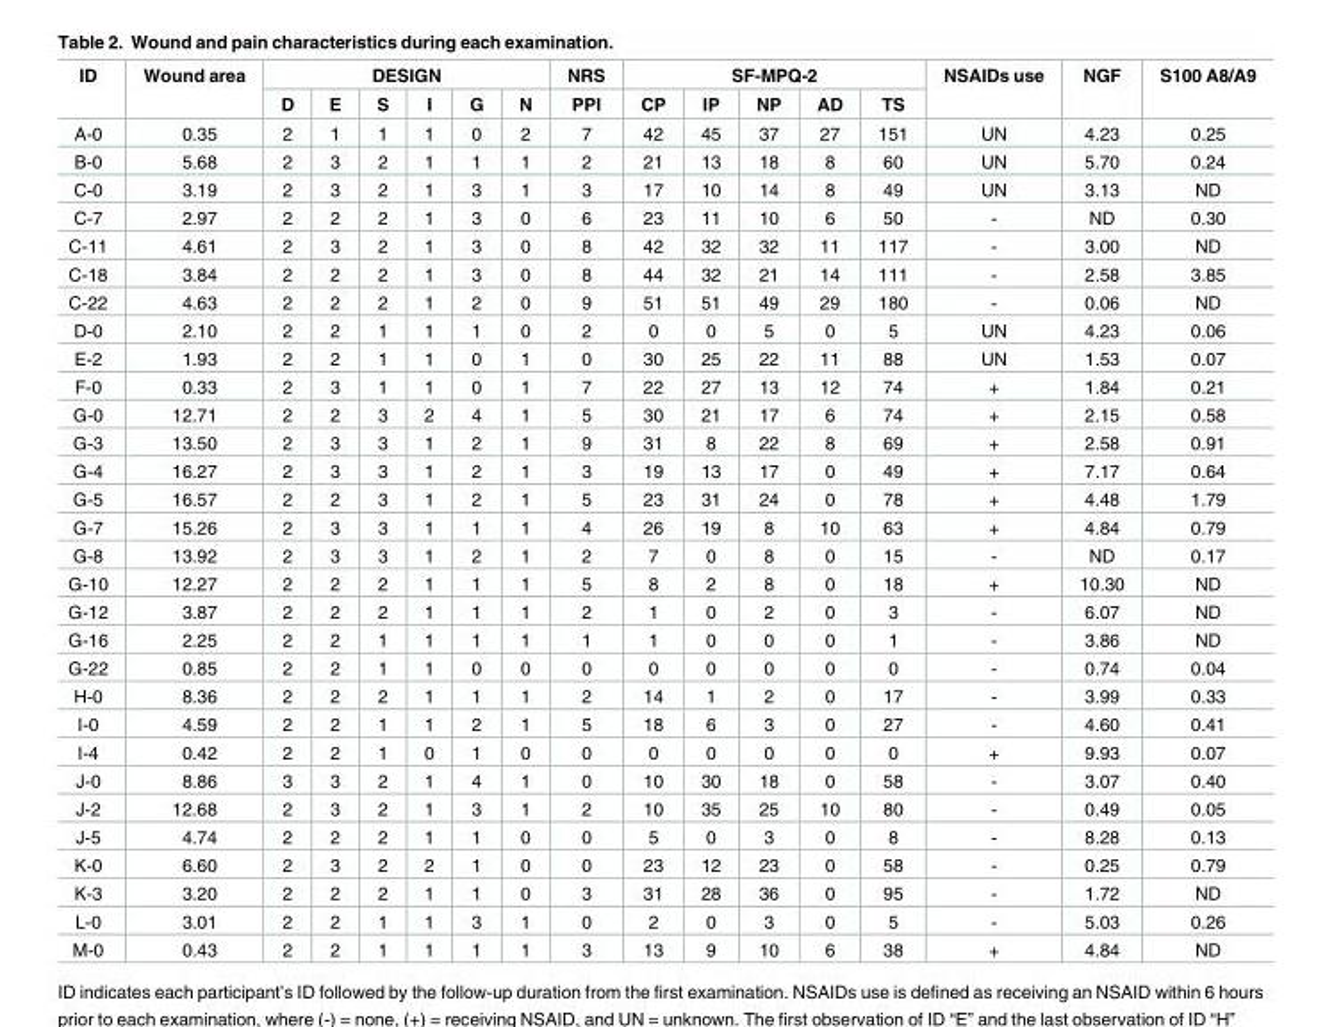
<table><thead><tr><td rowspan="2">ID</td><td rowspan="2">Wound area</td><td colspan="6">DESIGN</td><td rowspan="2">NRS PPI</td><td colspan="5">SF-MPQ-2</td><td rowspan="2">NSAIDs use</td><td rowspan="2">NGF</td><td rowspan="2">S100 A8/A9</td></tr><tr><td>D</td><td>E</td><td>S</td><td>I</td><td>G</td><td>N</td><td>CP</td><td>IP</td><td>NP</td><td>AD</td><td>TS</td></tr></thead><tbody><tr><td>A-0</td><td>0.35</td><td>2</td><td>1</td><td>1</td><td>1</td><td>0</td><td>2</td><td>7</td><td>42</td><td>45</td><td>37</td><td>27</td><td>151</td><td>UN</td><td>4.23</td><td>0.25</td></tr><tr><td>B-0</td><td>5.68</td><td>2</td><td>3</td><td>2</td><td>1</td><td>1</td><td>1</td><td>2</td><td>21</td><td>13</td><td>18</td><td>8</td><td>60</td><td>UN</td><td>5.70</td><td>0.24</td></tr><tr><td>C-0</td><td>3.19</td><td>2</td><td>3</td><td>2</td><td>1</td><td>3</td><td>1</td><td>3</td><td>17</td><td>10</td><td>14</td><td>8</td><td>49</td><td>UN</td><td>3.13</td><td>ND</td></tr><tr><td>C-7</td><td>2.97</td><td>2</td><td>2</td><td>2</td><td>1</td><td>3</td><td>0</td><td>6</td><td>23</td><td>11</td><td>10</td><td>6</td><td>50</td><td>-</td><td>ND</td><td>0.30</td></tr><tr><td>C-11</td><td>4.61</td><td>2</td><td>3</td><td>2</td><td>1</td><td>3</td><td>0</td><td>8</td><td>42</td><td>32</td><td>32</td><td>11</td><td>117</td><td>-</td><td>3.00</td><td>ND</td></tr><tr><td>C-18</td><td>3.84</td><td>2</td><td>2</td><td>2</td><td>1</td><td>3</td><td>0</td><td>8</td><td>44</td><td>32</td><td>21</td><td>14</td><td>111</td><td>-</td><td>2.58</td><td>3.85</td></tr><tr><td>C-22</td><td>4.63</td><td>2</td><td>2</td><td>2</td><td>1</td><td>2</td><td>0</td><td>9</td><td>51</td><td>51</td><td>49</td><td>29</td><td>180</td><td>-</td><td>0.06</td><td>ND</td></tr><tr><td>D-0</td><td>2.10</td><td>2</td><td>2</td><td>1</td><td>1</td><td>1</td><td>0</td><td>2</td><td>0</td><td>0</td><td>5</td><td>0</td><td>5</td><td>UN</td><td>4.23</td><td>0.06</td></tr><tr><td>E-2</td><td>1.93</td><td>2</td><td>2</td><td>1</td><td>1</td><td>0</td><td>1</td><td>0</td><td>30</td><td>25</td><td>22</td><td>11</td><td>88</td><td>UN</td><td>1.53</td><td>0.07</td></tr><tr><td>F-0</td><td>0.33</td><td>2</td><td>3</td><td>1</td><td>1</td><td>0</td><td>1</td><td>7</td><td>22</td><td>27</td><td>13</td><td>12</td><td>74</td><td>+</td><td>1.84</td><td>0.21</td></tr><tr><td>G-0</td><td>12.71</td><td>2</td><td>2</td><td>3</td><td>2</td><td>4</td><td>1</td><td>5</td><td>30</td><td>21</td><td>17</td><td>6</td><td>74</td><td>+</td><td>2.15</td><td>0.58</td></tr><tr><td>G-3</td><td>13.50</td><td>2</td><td>3</td><td>3</td><td>1</td><td>2</td><td>1</td><td>9</td><td>31</td><td>8</td><td>22</td><td>8</td><td>69</td><td>+</td><td>2.58</td><td>0.91</td></tr><tr><td>G-4</td><td>16.27</td><td>2</td><td>3</td><td>3</td><td>1</td><td>2</td><td>1</td><td>3</td><td>19</td><td>13</td><td>17</td><td>0</td><td>49</td><td>+</td><td>7.17</td><td>0.64</td></tr><tr><td>G-5</td><td>16.57</td><td>2</td><td>2</td><td>3</td><td>1</td><td>2</td><td>1</td><td>5</td><td>23</td><td>31</td><td>24</td><td>0</td><td>78</td><td>+</td><td>4.48</td><td>1.79</td></tr><tr><td>G-7</td><td>15.26</td><td>2</td><td>3</td><td>3</td><td>1</td><td>1</td><td>1</td><td>4</td><td>26</td><td>19</td><td>8</td><td>10</td><td>63</td><td>+</td><td>4.84</td><td>0.79</td></tr><tr><td>G-8</td><td>13.92</td><td>2</td><td>3</td><td>3</td><td>1</td><td>2</td><td>1</td><td>2</td><td>7</td><td>0</td><td>8</td><td>0</td><td>15</td><td>-</td><td>ND</td><td>0.17</td></tr><tr><td>G-10</td><td>12.27</td><td>2</td><td>2</td><td>2</td><td>1</td><td>1</td><td>1</td><td>5</td><td>8</td><td>2</td><td>8</td><td>0</td><td>18</td><td>+</td><td>10.30</td><td>ND</td></tr><tr><td>G-12</td><td>3.87</td><td>2</td><td>2</td><td>2</td><td>1</td><td>1</td><td>1</td><td>2</td><td>1</td><td>0</td><td>2</td><td>0</td><td>3</td><td>-</td><td>6.07</td><td>ND</td></tr><tr><td>G-16</td><td>2.25</td><td>2</td><td>2</td><td>1</td><td>1</td><td>1</td><td>1</td><td>1</td><td>1</td><td>0</td><td>0</td><td>0</td><td>1</td><td>-</td><td>3.86</td><td>ND</td></tr><tr><td>G-22</td><td>0.85</td><td>2</td><td>2</td><td>1</td><td>1</td><td>0</td><td>0</td><td>0</td><td>0</td><td>0</td><td>0</td><td>0</td><td>0</td><td>-</td><td>0.74</td><td>0.04</td></tr><tr><td>H-0</td><td>8.36</td><td>2</td><td>2</td><td>2</td><td>1</td><td>1</td><td>1</td><td>2</td><td>14</td><td>1</td><td>2</td><td>0</td><td>17</td><td>-</td><td>3.99</td><td>0.33</td></tr><tr><td>I-0</td><td>4.59</td><td>2</td><td>2</td><td>1</td><td>1</td><td>2</td><td>1</td><td>5</td><td>18</td><td>6</td><td>3</td><td>0</td><td>27</td><td>-</td><td>4.60</td><td>0.41</td></tr><tr><td>I-4</td><td>0.42</td><td>2</td><td>2</td><td>1</td><td>0</td><td>1</td><td>0</td><td>0</td><td>0</td><td>0</td><td>0</td><td>0</td><td>0</td><td>+</td><td>9.93</td><td>0.07</td></tr><tr><td>J-0</td><td>8.86</td><td>3</td><td>3</td><td>2</td><td>1</td><td>4</td><td>1</td><td>0</td><td>10</td><td>30</td><td>18</td><td>0</td><td>58</td><td>-</td><td>3.07</td><td>0.40</td></tr><tr><td>J-2</td><td>12.68</td><td>2</td><td>3</td><td>2</td><td>1</td><td>3</td><td>1</td><td>2</td><td>10</td><td>35</td><td>25</td><td>10</td><td>80</td><td>-</td><td>0.49</td><td>0.05</td></tr><tr><td>J-5</td><td>4.74</td><td>2</td><td>2</td><td>2</td><td>1</td><td>1</td><td>0</td><td>0</td><td>5</td><td>0</td><td>3</td><td>0</td><td>8</td><td>-</td><td>8.28</td><td>0.13</td></tr><tr><td>K-0</td><td>6.60</td><td>2</td><td>3</td><td>2</td><td>2</td><td>1</td><td>0</td><td>0</td><td>23</td><td>12</td><td>23</td><td>0</td><td>58</td><td>-</td><td>0.25</td><td>0.79</td></tr><tr><td>K-3</td><td>3.20</td><td>2</td><td>2</td><td>2</td><td>1</td><td>1</td><td>0</td><td>3</td><td>31</td><td>28</td><td>36</td><td>0</td><td>95</td><td>-</td><td>1.72</td><td>ND</td></tr><tr><td>L-0</td><td>3.01</td><td>2</td><td>2</td><td>1</td><td>1</td><td>3</td><td>1</td><td>0</td><td>2</td><td>0</td><td>3</td><td>0</td><td>5</td><td>-</td><td>5.03</td><td>0.26</td></tr><tr><td>M-0</td><td>0.43</td><td>2</td><td>2</td><td>1</td><td>1</td><td>1</td><td>1</td><td>3</td><td>13</td><td>9</td><td>10</td><td>6</td><td>38</td><td>+</td><td>4.84</td><td>ND</td></tr></tbody></table>